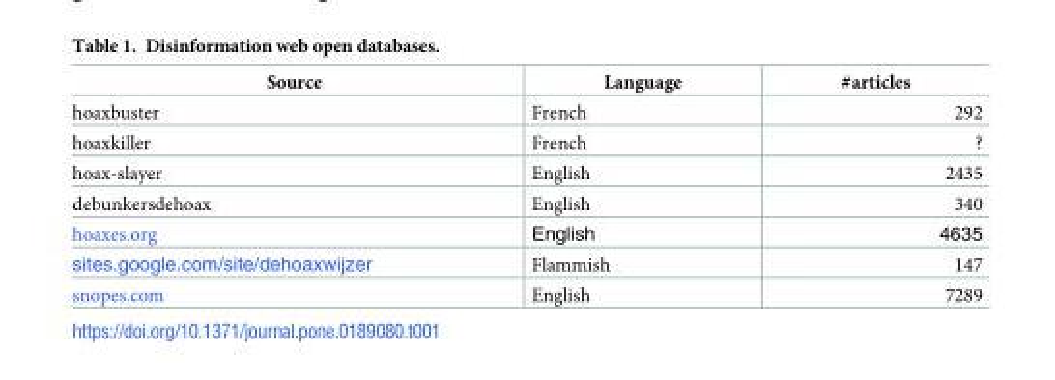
<table><thead><tr><td>Source</td><td>Language</td><td>#articles</td></tr></thead><tbody><tr><td>hoaxbuster</td><td>French</td><td>292</td></tr><tr><td>hoaxkiller</td><td>French</td><td>?</td></tr><tr><td>hoax-slayer</td><td>English</td><td>2435</td></tr><tr><td>debunkersdehoax</td><td>English</td><td>340</td></tr><tr><td>hoaxes.org</td><td>English</td><td>4635</td></tr><tr><td>sites.google.com/site/dehoaxwijzer</td><td>Flammish</td><td>147</td></tr><tr><td>snopes.com</td><td>English</td><td>7289</td></tr></tbody></table>